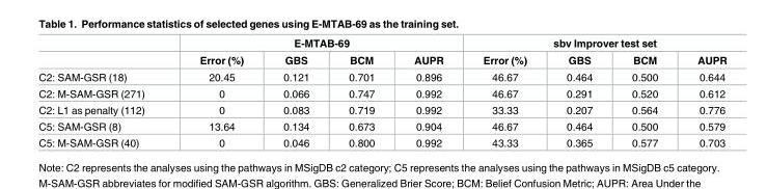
<table><thead><tr><td rowspan="2"></td><td colspan="4">E-MTAB-69</td><td colspan="4">sbv Improver test set</td></tr><tr><td>Error (%)</td><td>GBS</td><td>BCM</td><td>AUPR</td><td>Error (%)</td><td>GBS</td><td>BCM</td><td>AUPR</td></tr></thead><tbody><tr><td>C2: SAM-GSR (18)</td><td>20.45</td><td>0.121</td><td>0.701</td><td>0.896</td><td>46.67</td><td>0.464</td><td>0.500</td><td>0.644</td></tr><tr><td>C2: M-SAM-GSR (271)</td><td>0</td><td>0.066</td><td>0.747</td><td>0.992</td><td>46.67</td><td>0.291</td><td>0.520</td><td>0.612</td></tr><tr><td>C2: L1 as penalty (112)</td><td>0</td><td>0.083</td><td>0.719</td><td>0.992</td><td>33.33</td><td>0.207</td><td>0.564</td><td>0.776</td></tr><tr><td>C5: SAM-GSR (8)</td><td>13.64</td><td>0.134</td><td>0.673</td><td>0.904</td><td>46.67</td><td>0.464</td><td>0.500</td><td>0.579</td></tr><tr><td>C5: M-SAM-GSR (40)</td><td>0</td><td>0.046</td><td>0.800</td><td>0.992</td><td>43.33</td><td>0.365</td><td>0.577</td><td>0.703</td></tr></tbody></table>